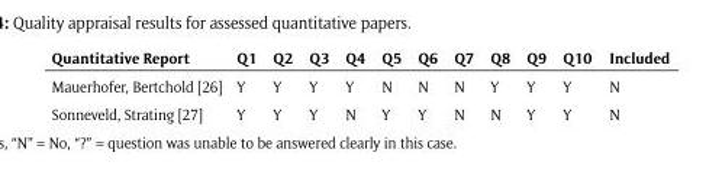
<table><thead><tr><td>Quantitative Report</td><td>Q1</td><td>Q2</td><td>Q3</td><td>Q4</td><td>Q5</td><td>Q6</td><td>Q7</td><td>Q8</td><td>Q9</td><td>Q10</td><td>Included</td></tr></thead><tbody><tr><td>Mauerhofer, Bertchold [26]</td><td>Y</td><td>Y</td><td>Y</td><td>Y</td><td>N</td><td>N</td><td>N</td><td>Y</td><td>Y</td><td>Y</td><td>N</td></tr><tr><td>Sonneveld, Strating [27]</td><td>Y</td><td>Y</td><td>Y</td><td>N</td><td>Y</td><td>Y</td><td>N</td><td>N</td><td>Y</td><td>Y</td><td>N</td></tr></tbody></table>